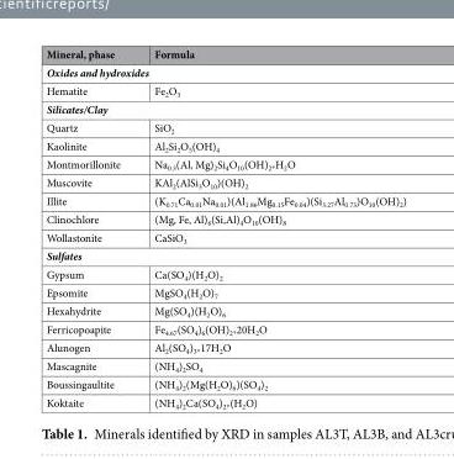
<table><thead><tr><td>Mineral, phase</td><td>Formula</td></tr></thead><tbody><tr><td colspan="2">Oxides and hydroxides</td></tr><tr><td>Hematite</td><td>Fe<sub>2</sub>O<sub>3</sub></td></tr><tr><td colspan="2">Silicates/Clay</td></tr><tr><td>Quartz</td><td>SiO<sub>2</sub></td></tr><tr><td>Kaolinite</td><td>Al<sub>2</sub>Si<sub>2</sub>O<sub>5</sub>(OH)<sub>4</sub></td></tr><tr><td>Montmorillonite</td><td>Na<sub>0.3</sub>(Al, Mg)<sub>2</sub>Si<sub>4</sub>O<sub>10</sub>(OH)<sub>2*</sub>H<sub>2</sub>O</td></tr><tr><td>Muscovite</td><td>KAl<sub>2</sub>(AlSi<sub>3</sub>O<sub>10</sub>)(OH)<sub>2</sub></td></tr><tr><td>Illite</td><td>(K<sub>0.71</sub>Ca<sub>0.01</sub>Na<sub>0.01</sub>)(Al<sub>1.86</sub>Mg<sub>0.15</sub>Fe<sub>0.04</sub>)(Si<sub>3.27</sub>Al<sub>0.73</sub>)O<sub>10</sub>(OH)<sub>2</sub>)</td></tr><tr><td>Clinochlore</td><td>(Mg, Fe, Al)<sub>6</sub>(Si,Al)<sub>4</sub>O<sub>10</sub>(OH)<sub>8</sub></td></tr><tr><td>Wollastonite</td><td>CaSiO<sub>3</sub></td></tr><tr><td colspan="2">Sulfates</td></tr><tr><td>Gypsum</td><td>Ca(SO<sub>4</sub>)(H<sub>2</sub>O)<sub>2</sub></td></tr><tr><td>Epsomite</td><td>MgSO<sub>4</sub>(H<sub>2</sub>O)<sub>7</sub></td></tr><tr><td>Hexahydrite</td><td>Mg(SO<sub>4</sub>)(H<sub>2</sub>O)<sub>6</sub></td></tr><tr><td>Ferricopoapite</td><td>Fe<sub>4.67</sub>(SO<sub>4</sub>)<sub>6</sub>(OH)<sub>2*</sub>20H<sub>2</sub>O</td></tr><tr><td>Alunogen</td><td>Al<sub>2</sub>(SO<sub>4</sub>)<sub>3*</sub>17H<sub>2</sub>O</td></tr><tr><td>Mascagnite</td><td>(NH<sub>4</sub>)<sub>2</sub>SO<sub>4</sub></td></tr><tr><td>Boussingaultite</td><td>(NH<sub>4</sub>)<sub>2</sub>(Mg(H<sub>2</sub>O)<sub>6</sub>)(SO<sub>4</sub>)<sub>2</sub></td></tr><tr><td>Koktaite</td><td>(NH<sub>4</sub>)<sub>2</sub>Ca(SO<sub>4</sub>)<sub>2*</sub>(H<sub>2</sub>O)</td></tr></tbody></table>